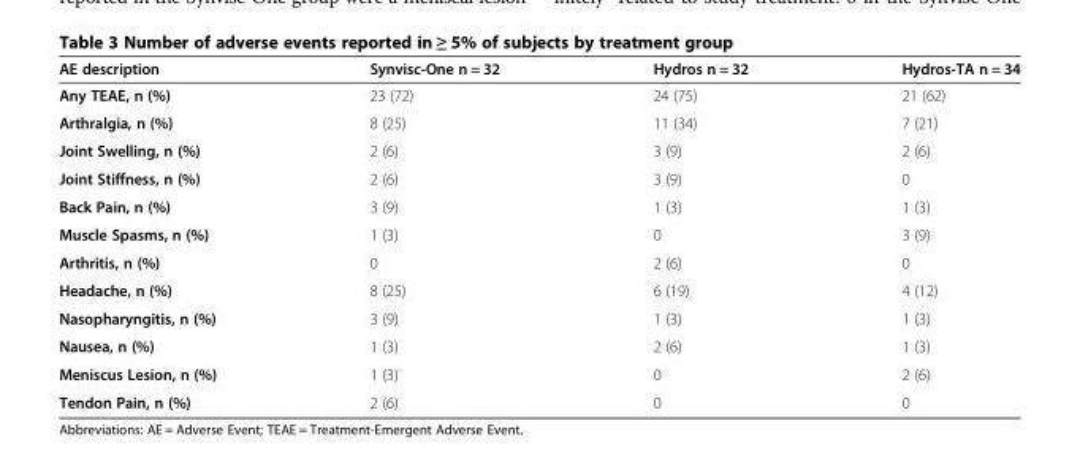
<table><thead><tr><td>AE description</td><td>Synvisc-One n = 32</td><td>Hydros n = 32</td><td>Hydros-TA n = 34</td></tr></thead><tbody><tr><td>Any TEAE, n (%)</td><td>23 (72)</td><td>24 (75)</td><td>21 (62)</td></tr><tr><td>Arthralgia, n (%)</td><td>8 (25)</td><td>11 (34)</td><td>7 (21)</td></tr><tr><td>Joint Swelling, n (%)</td><td>2 (6)</td><td>3 (9)</td><td>2 (6)</td></tr><tr><td>Joint Stiffness, n (%)</td><td>2 (6)</td><td>3 (9)</td><td>0</td></tr><tr><td>Back Pain, n (%)</td><td>3 (9)</td><td>1 (3)</td><td>1 (3)</td></tr><tr><td>Muscle Spasms, n (%)</td><td>1 (3)</td><td>0</td><td>3 (9)</td></tr><tr><td>Arthritis, n (%)</td><td>0</td><td>2 (6)</td><td>0</td></tr><tr><td>Headache, n (%)</td><td>8 (25)</td><td>6 (19)</td><td>4 (12)</td></tr><tr><td>Nasopharyngitis, n (%)</td><td>3 (9)</td><td>1 (3)</td><td>1 (3)</td></tr><tr><td>Nausea, n (%)</td><td>1 (3)</td><td>2 (6)</td><td>1 (3)</td></tr><tr><td>Meniscus Lesion, n (%)</td><td>1 (3)</td><td>0</td><td>2 (6)</td></tr><tr><td>Tendon Pain, n (%)</td><td>2 (6)</td><td>0</td><td>0</td></tr></tbody></table>